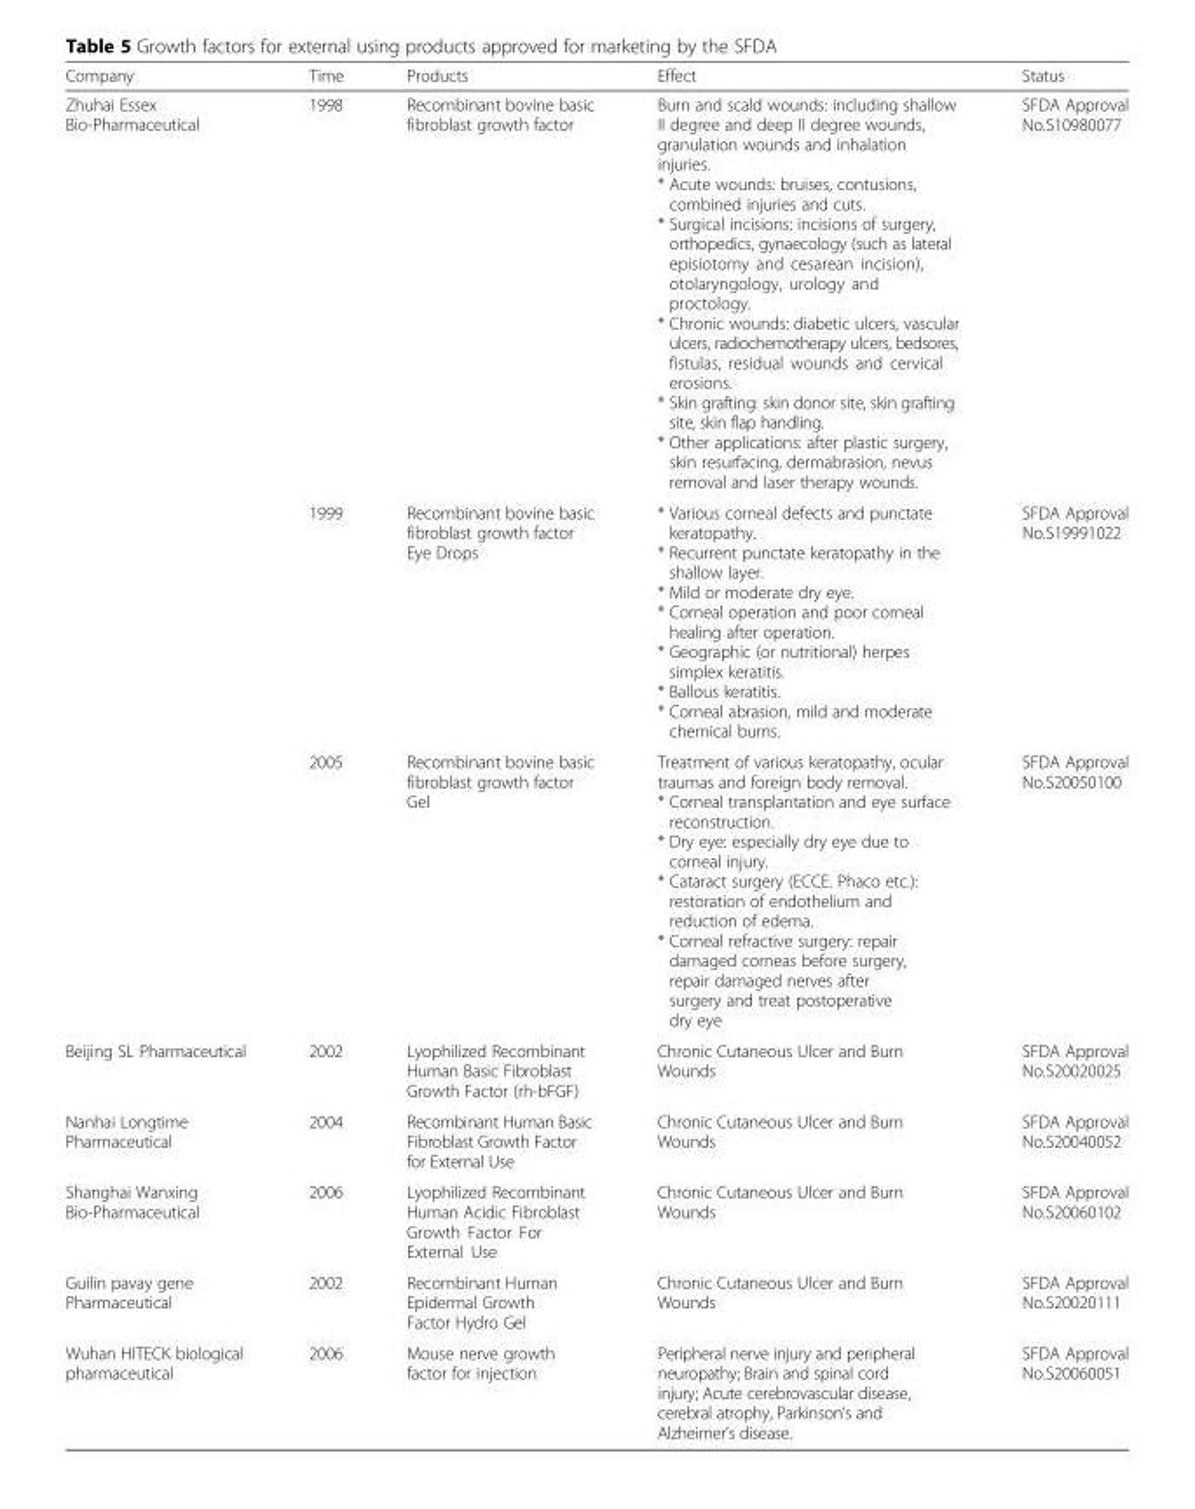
<table><thead><tr><td>Company</td><td>Time</td><td>Products</td><td>Effect</td><td>Status</td></tr></thead><tbody><tr><td rowspan="3">Zhuhai Essex Bio-Pharmaceutical</td><td>1998</td><td>Recombinant bovine basic fibroblast growth factor</td><td>Burn and scald wounds: including shallow II degree and deep II degree wounds, granulation wounds and inhalation injuries. * Acute wounds: bruises, contusions, combined injuries and cuts. * Surgical incisions: incisions of surgery, orthopedics, gynaecology (such as lateral episiotomy and cesarean incision), otolaryngology, urology and proctology. * Chronic wounds: diabetic ulcers, vascular ulcers, radiochemotherapy ulcers, bedsores, fistulas, residual wounds and cervical erosions. * Skin grafting: skin donor site, skin grafting site, skin flap handling. * Other applications: after plastic surgery, skin resurfacing, dermabrasion, nevus removal and laser therapy wounds.</td><td>SFDA Approval No.S10980077</td></tr><tr><td>1999</td><td>Recombinant bovine basic fibroblast growth factor Eye Drops</td><td>* Various corneal defects and punctate keratopathy. * Recurrent punctate keratopathy in the shallow layer. * Mild or moderate dry eye. * Corneal operation and poor corneal healing after operation. * Geographic (or nutritional) herpes simplex keratitis. * Ballous keratitis. * Corneal abrasion, mild and moderate chemical burns.</td><td>SFDA Approval No.S19991022</td></tr><tr><td>2005</td><td>Recombinant bovine basic fibroblast growth factor Gel</td><td>Treatment of various keratopathy, ocular traumas and foreign body removal. * Corneal transplantation and eye surface reconstruction. * Dry eye: especially dry eye due to corneal injury. * Cataract surgery (ECCE. Phaco etc.): restoration of endothelium and reduction of edema. * Corneal refractive surgery: repair damaged corneas before surgery, repair damaged nerves after surgery and treat postoperative dry eye</td><td>SFDA Approval No.S20050100</td></tr><tr><td>Beijing SL Pharmaceutical</td><td>2002</td><td>Lyophilized Recombinant Human Basic Fibroblast Growth Factor (rh-bFGF)</td><td>Chronic Cutaneous Ulcer and Burn Wounds</td><td>SFDA Approval No.S20020025</td></tr><tr><td>Nanhai Longtime Pharmaceutical</td><td>2004</td><td>Recombinant Human Basic Fibroblast Growth Factor for External Use</td><td>Chronic Cutaneous Ulcer and Burn Wounds</td><td>SFDA Approval No.S20040052</td></tr><tr><td>Shanghai Wanxing Bio-Pharmaceutical</td><td>2006</td><td>Lyophilized Recombinant Human Acidic Fibroblast Growth Factor For External Use</td><td>Chronic Cutaneous Ulcer and Burn Wounds</td><td>SFDA Approval No.S20060102</td></tr><tr><td>Guilin pavay gene Pharmaceutical</td><td>2002</td><td>Recombinant Human Epidermal Growth Factor Hydro Gel</td><td>Chronic Cutaneous Ulcer and Burn Wounds</td><td>SFDA Approval No.S20020111</td></tr><tr><td>Wuhan HITECK biological pharmaceutical</td><td>2006</td><td>Mouse nerve growth factor for injection</td><td>Peripheral nerve injury and peripheral neuropathy; Brain and spinal cord injury; Acute cerebrovascular disease, cerebral atrophy, Parkinson’s and Alzheimer’s disease.</td><td>SFDA Approval No.S20060051</td></tr></tbody></table>